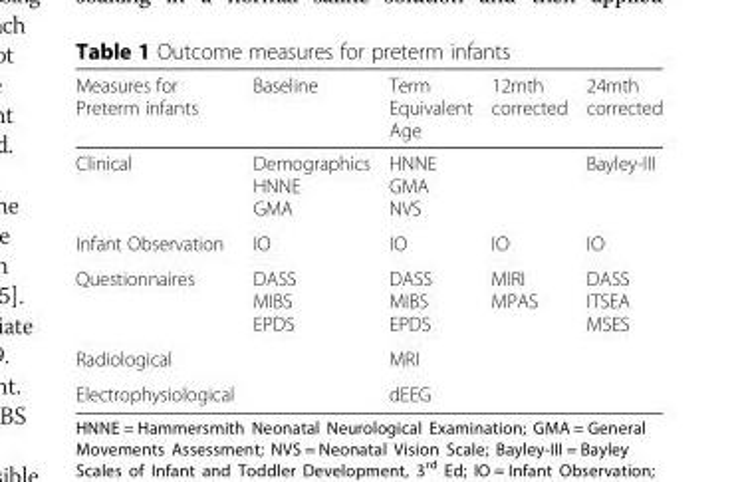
<table><thead><tr><td>Measures for Preterm infants</td><td>Baseline</td><td>Term Equivalent Age</td><td>12mth corrected</td><td>24mth corrected</td></tr></thead><tbody><tr><td>Clinical</td><td>Demographics HNNE GMA</td><td>HNNE GMA NVS</td><td></td><td>Bayley-III</td></tr><tr><td>Infant Observation</td><td>IO</td><td>IO</td><td>IO</td><td>IO</td></tr><tr><td>Questionnaires</td><td>DASS MIBS EPDS</td><td>DASS MIBS EPDS</td><td>MIRI MPAS</td><td>DASS ITSEA MSES</td></tr><tr><td>Radiological</td><td></td><td>MRI</td><td></td><td></td></tr><tr><td>Electrophysiological</td><td></td><td>dEEG</td><td></td><td></td></tr></tbody></table>